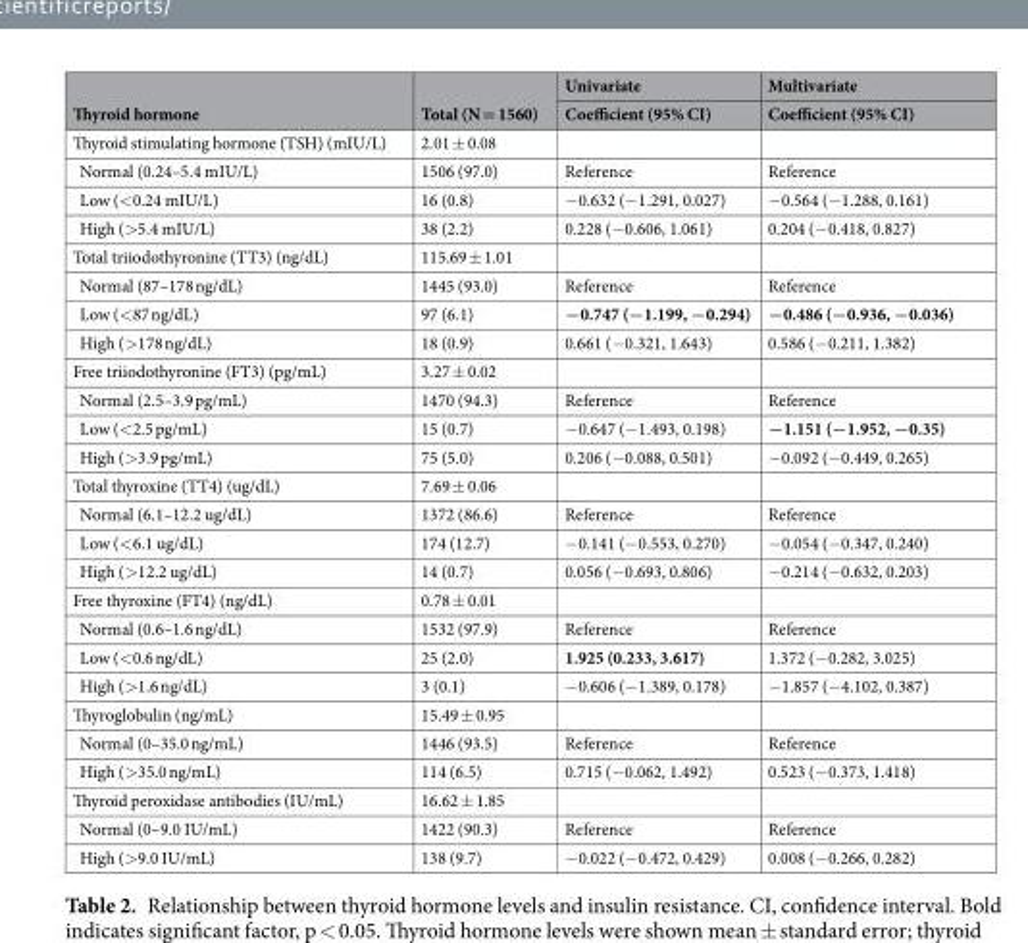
<table><thead><tr><td rowspan="2">Thyroid hormone</td><td rowspan="2">Total (N = 1560)</td><td rowspan="2">Univariate Coefficient (95% CI)</td><td rowspan="2">Multivariate Coefficient (95% CI)</td></tr><tr></tr></thead><tbody><tr><td>Thyroid stimulating hormone (TSH) (mIU/L)</td><td>2.01 ± 0.08</td><td></td><td></td></tr><tr><td>Normal (0.24–5.4 mIU/L)</td><td>1506 (97.0)</td><td>Reference</td><td>Reference</td></tr><tr><td>Low (&lt;0.24 mIU/L)</td><td>16 (0.8)</td><td>−0.632 (−1.291, 0.027)</td><td>−0.564 (−1.288, 0.161)</td></tr><tr><td>High (&gt;5.4 mIU/L)</td><td>38 (2.2)</td><td>0.228 (−0.606, 1.061)</td><td>0.204 (−0.418, 0.827)</td></tr><tr><td>Total triiodothyronine (TT3) (ng/dL)</td><td>115.69 ± 1.01</td><td></td><td></td></tr><tr><td>Normal (87–178 ng/dL)</td><td>1445 (93.0)</td><td>Reference</td><td>Reference</td></tr><tr><td>Low (&lt;87 ng/dL)</td><td>97 (6.1)</td><td>−0.747 (−1.199, −0.294)</td><td>−0.486 (−0.936, −0.036)</td></tr><tr><td>High (&gt;178 ng/dL)</td><td>18 (0.9)</td><td>0.661 (−0.321, 1.643)</td><td>0.586 (−0.211, 1.382)</td></tr><tr><td>Free triiodothyronine (FT3) (pg/mL)</td><td>3.27 ± 0.02</td><td></td><td></td></tr><tr><td>Normal (2.5–3.9 pg/mL)</td><td>1470 (94.3)</td><td>Reference</td><td>Reference</td></tr><tr><td>Low (&lt;2.5 pg/mL)</td><td>15 (0.7)</td><td>−0.647 (−1.493, 0.198)</td><td>−1.151 (−1.952, −0.35)</td></tr><tr><td>High (&gt;3.9 pg/mL)</td><td>75 (5.0)</td><td>0.206 (−0.088, 0.501)</td><td>−0.092 (−0.449, 0.265)</td></tr><tr><td>Total thyroxine (TT4) (ug/dL)</td><td>7.69 ± 0.06</td><td></td><td></td></tr><tr><td>Normal (6.1–12.2 ug/dL)</td><td>1372 (86.6)</td><td>Reference</td><td>Reference</td></tr><tr><td>Low (&lt;6.1 ug/dL)</td><td>174 (12.7)</td><td>−0.141 (−0.553, 0.270)</td><td>−0.054 (−0.347, 0.240)</td></tr><tr><td>High (&gt;12.2 ug/dL)</td><td>14 (0.7)</td><td>0.056 (−0.693, 0.806)</td><td>−0.214 (−0.632, 0.203)</td></tr><tr><td>Free thyroxine (FT4) (ng/dL)</td><td>0.78 ± 0.01</td><td></td><td></td></tr><tr><td>Normal (0.6–1.6 ng/dL)</td><td>1532 (97.9)</td><td>Reference</td><td>Reference</td></tr><tr><td>Low (&lt;0.6 ng/dL)</td><td>25 (2.0)</td><td>1.925 (0.233, 3.617)</td><td>1.372 (−0.282, 3.025)</td></tr><tr><td>High (&gt;1.6 ng/dL)</td><td>3 (0.1)</td><td>−0.606 (−1.389, 0.178)</td><td>−1.857 (−4.102, 0.387)</td></tr><tr><td>Thyroglobulin (ng/mL)</td><td>15.49 ± 0.95</td><td></td><td></td></tr><tr><td>Normal (0–35.0 ng/mL)</td><td>1446 (93.5)</td><td>Reference</td><td>Reference</td></tr><tr><td>High (&gt;35.0 ng/mL)</td><td>114 (6.5)</td><td>0.715 (−0.062, 1.492)</td><td>0.523 (−0.373, 1.418)</td></tr><tr><td>Thyroid peroxidase antibodies (IU/mL)</td><td>16.62 ± 1.85</td><td></td><td></td></tr><tr><td>Normal (0–9.0 IU/mL)</td><td>1422 (90.3)</td><td>Reference</td><td>Reference</td></tr><tr><td>High (&gt;9.0 IU/mL)</td><td>138 (9.7)</td><td>−0.022 (−0.472, 0.429)</td><td>0.008 (−0.266, 0.282)</td></tr></tbody></table>